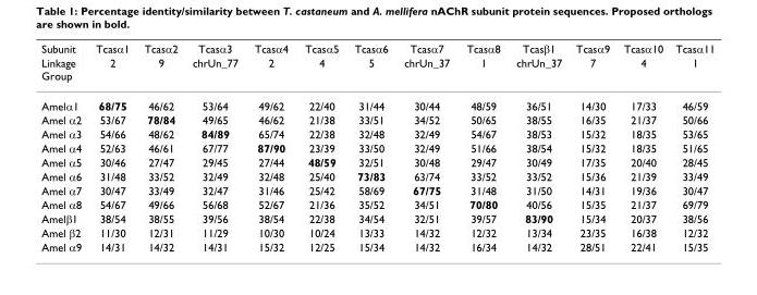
<table><thead><tr><td rowspan="2">Subunit Linkage Group</td><td rowspan="2">Tcasα1 2</td><td rowspan="2">Tcasα2 9</td><td rowspan="2">Tcasα3 chrUn_77</td><td rowspan="2">Tcasα4 2</td><td rowspan="2">Tcasα5 4</td><td rowspan="2">Tcasα6 5</td><td rowspan="2">Tcasα7 chrUn_37</td><td rowspan="2">Tcasα8 1</td><td rowspan="2">Tcasβ1 chrUn_37</td><td rowspan="2">Tcasα9 7</td><td rowspan="2">Tcasα10 4</td><td rowspan="2">Tcasα11 1</td></tr><tr></tr></thead><tbody><tr><td>Amelα1</td><td>68/75</td><td>46/62</td><td>53/64</td><td>49/62</td><td>22/40</td><td>31/44</td><td>30/44</td><td>48/59</td><td>36/51</td><td>14/30</td><td>17/33</td><td>46/59</td></tr><tr><td>Amel α2</td><td>53/67</td><td>78/84</td><td>49/65</td><td>46/62</td><td>21/38</td><td>33/51</td><td>34/52</td><td>50/65</td><td>38/55</td><td>16/35</td><td>21/37</td><td>50/66</td></tr><tr><td>Amel α3</td><td>54/66</td><td>48/62</td><td>84/89</td><td>65/74</td><td>22/38</td><td>32/48</td><td>32/49</td><td>54/67</td><td>38/53</td><td>15/32</td><td>18/35</td><td>53/65</td></tr><tr><td>Amel α4</td><td>52/63</td><td>46/61</td><td>67/77</td><td>87/90</td><td>23/39</td><td>33/50</td><td>32/49</td><td>51/66</td><td>38/54</td><td>15/32</td><td>18/35</td><td>51/65</td></tr><tr><td>Amel α5</td><td>30/46</td><td>27/47</td><td>29/45</td><td>27/44</td><td>48/59</td><td>32/51</td><td>30/48</td><td>29/47</td><td>30/49</td><td>17/35</td><td>20/40</td><td>28/45</td></tr><tr><td>Amel α6</td><td>31/48</td><td>33/52</td><td>32/49</td><td>32/48</td><td>25/40</td><td>73/83</td><td>63/74</td><td>33/52</td><td>33/52</td><td>15/36</td><td>21/39</td><td>33/49</td></tr><tr><td>Amel α7</td><td>30/47</td><td>33/49</td><td>32/47</td><td>31/46</td><td>25/42</td><td>58/69</td><td>67/75</td><td>31/48</td><td>31/50</td><td>14/31</td><td>19/36</td><td>30/47</td></tr><tr><td>Amel α8</td><td>54/67</td><td>49/66</td><td>56/68</td><td>52/67</td><td>21/36</td><td>35/52</td><td>34/51</td><td>70/80</td><td>40/56</td><td>15/35</td><td>21/37</td><td>69/79</td></tr><tr><td>Amelβ1</td><td>38/54</td><td>38/55</td><td>39/56</td><td>38/54</td><td>22/38</td><td>34/54</td><td>32/51</td><td>39/57</td><td>83/90</td><td>15/34</td><td>20/37</td><td>38/56</td></tr><tr><td>Amel β2</td><td>11/30</td><td>12/31</td><td>11/29</td><td>10/30</td><td>10/24</td><td>13/33</td><td>14/32</td><td>12/32</td><td>13/34</td><td>23/35</td><td>16/38</td><td>12/32</td></tr><tr><td>Amel α9</td><td>14/31</td><td>14/32</td><td>14/31</td><td>15/32</td><td>12/25</td><td>15/34</td><td>14/32</td><td>16/34</td><td>14/32</td><td>28/51</td><td>22/41</td><td>15/35</td></tr></tbody></table>